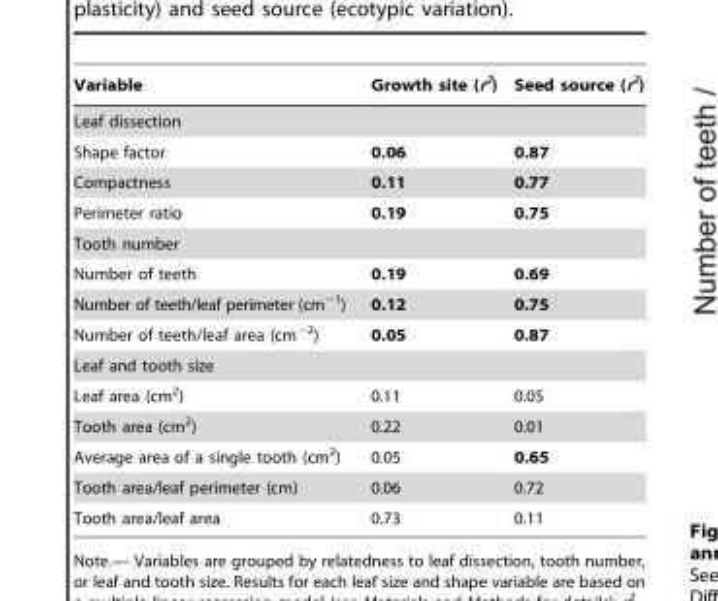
<table><thead><tr><td>Variable</td><td>Growth site (r<sup>2</sup>)</td><td>Seed source (r<sup>2</sup>)</td></tr></thead><tbody><tr><td colspan="3">Leaf dissection</td></tr><tr><td>Shape factor</td><td>0.06</td><td>0.87</td></tr><tr><td>Compactness</td><td>0.11</td><td>0.77</td></tr><tr><td>Perimeter ratio</td><td>0.19</td><td>0.75</td></tr><tr><td colspan="3">Tooth number</td></tr><tr><td>Number of teeth</td><td>0.19</td><td>0.69</td></tr><tr><td>Number of teeth/leaf perimeter (cm<sup>−1</sup>)</td><td>0.12</td><td>0.75</td></tr><tr><td>Number of teeth/leaf area (cm<sup>−2</sup>)</td><td>0.05</td><td>0.87</td></tr><tr><td colspan="3">Leaf and tooth size</td></tr><tr><td>Leaf area (cm<sup>2</sup>)</td><td>0.11</td><td>0.05</td></tr><tr><td>Tooth area (cm<sup>2</sup>)</td><td>0.22</td><td>0.01</td></tr><tr><td>Average area of a single tooth (cm<sup>2</sup>)</td><td>0.05</td><td>0.65</td></tr><tr><td>Tooth area/leaf perimeter (cm)</td><td>0.06</td><td>0.72</td></tr><tr><td>Tooth area/leaf area</td><td>0.73</td><td>0.11</td></tr></tbody></table>